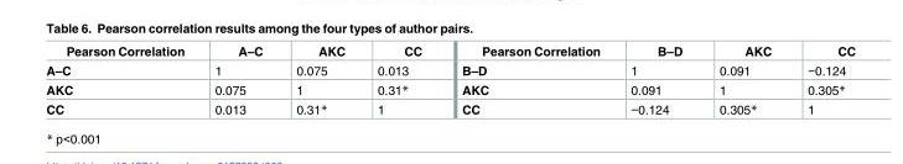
<table><thead><tr><td>Pearson Correlation</td><td>A–C</td><td>AKC</td><td>CC</td><td>Pearson Correlation</td><td>B–D</td><td>AKC</td><td>CC</td></tr></thead><tbody><tr><td>A–C</td><td>1</td><td>0.075</td><td>0.013</td><td>B–D</td><td>1</td><td>0.091</td><td>−0.124</td></tr><tr><td>AKC</td><td>0.075</td><td>1</td><td>0.31*</td><td>AKC</td><td>0.091</td><td>1</td><td>0.305*</td></tr><tr><td>CC</td><td>0.013</td><td>0.31*</td><td>1</td><td>CC</td><td>−0.124</td><td>0.305*</td><td>1</td></tr></tbody></table>